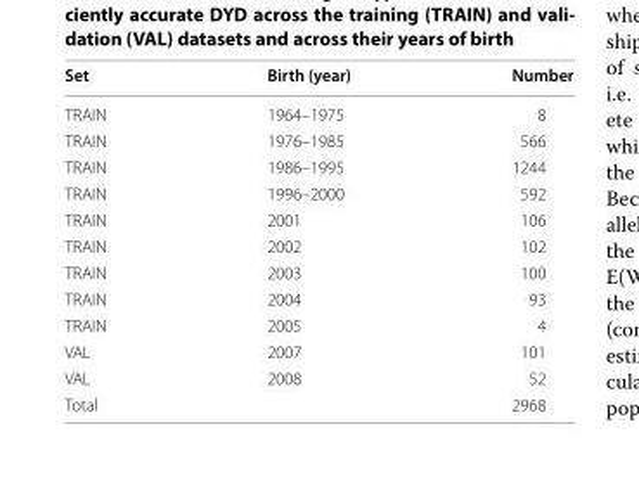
<table><thead><tr><td>Set</td><td>Birth (year)</td><td>Number</td></tr></thead><tbody><tr><td>TRAIN</td><td>1964–1975</td><td>8</td></tr><tr><td>TRAIN</td><td>1976–1985</td><td>566</td></tr><tr><td>TRAIN</td><td>1986–1995</td><td>1244</td></tr><tr><td>TRAIN</td><td>1996–2000</td><td>592</td></tr><tr><td>TRAIN</td><td>2001</td><td>106</td></tr><tr><td>TRAIN</td><td>2002</td><td>102</td></tr><tr><td>TRAIN</td><td>2003</td><td>100</td></tr><tr><td>TRAIN</td><td>2004</td><td>93</td></tr><tr><td>TRAIN</td><td>2005</td><td>4</td></tr><tr><td>VAL</td><td>2007</td><td>101</td></tr><tr><td>VAL</td><td>2008</td><td>52</td></tr><tr><td>Total</td><td></td><td>2968</td></tr></tbody></table>